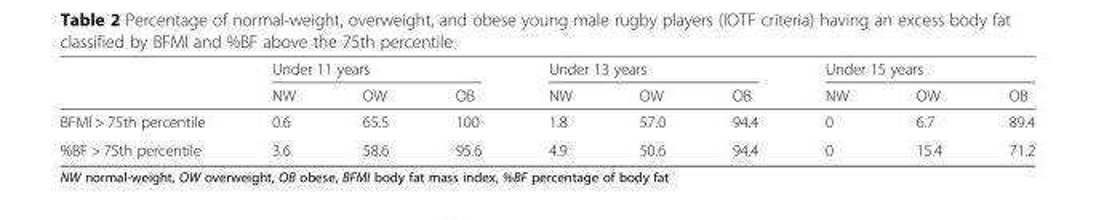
<table><thead><tr><td rowspan="2"></td><td colspan="3">Under 11 years</td><td colspan="3">Under 13 years</td><td colspan="3">Under 15 years</td></tr><tr><td>NW</td><td>OW</td><td>OB</td><td>NW</td><td>OW</td><td>OB</td><td>NW</td><td>OW</td><td>OB</td></tr></thead><tbody><tr><td>BFMI &gt; 75th percentile</td><td>0.6</td><td>65.5</td><td>100</td><td>1.8</td><td>57.0</td><td>94.4</td><td>0</td><td>6.7</td><td>89.4</td></tr><tr><td>%BF &gt; 75th percentile</td><td>3.6</td><td>58.6</td><td>95.6</td><td>4.9</td><td>50.6</td><td>94.4</td><td>0</td><td>15.4</td><td>71.2</td></tr></tbody></table>